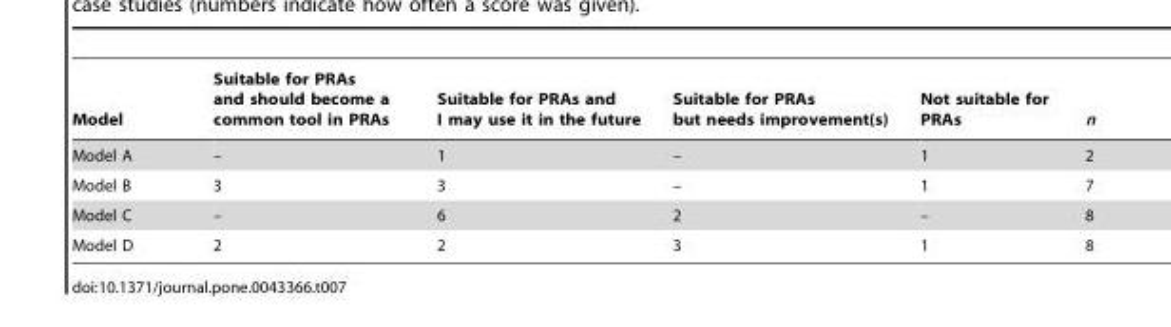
<table><thead><tr><td>Model</td><td>Suitable for PRAs and should become a common tool in PRAs</td><td>Suitable for PRAs and I may use it in the future</td><td>Suitable for PRAs but needs improvement(s)</td><td>Not suitable for PRAs</td><td>n</td></tr></thead><tbody><tr><td>Model A</td><td>–</td><td>1</td><td>–</td><td>1</td><td>2</td></tr><tr><td>Model B</td><td>3</td><td>3</td><td>–</td><td>1</td><td>7</td></tr><tr><td>Model C</td><td>–</td><td>6</td><td>2</td><td>–</td><td>8</td></tr><tr><td>Model D</td><td>2</td><td>2</td><td>3</td><td>1</td><td>8</td></tr></tbody></table>